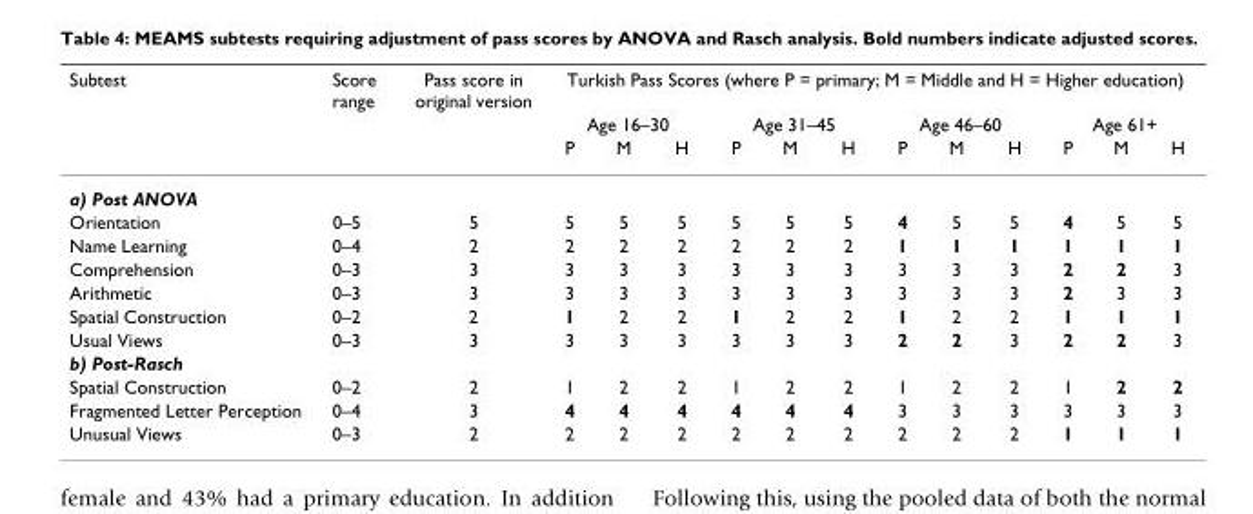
<table><thead><tr><td rowspan="3">Subtest</td><td rowspan="3">Score range</td><td rowspan="3">Pass score in original version</td><td colspan="12">Turkish Pass Scores (where P = primary; M = Middle and H = Higher education)</td></tr><tr><td colspan="3">Age 16–30</td><td colspan="3">Age 31–45</td><td colspan="3">Age 46–60</td><td colspan="3">Age 61+</td></tr><tr><td>P</td><td>M</td><td>H</td><td>P</td><td>M</td><td>H</td><td>P</td><td>M</td><td>H</td><td>P</td><td>M</td><td>H</td></tr></thead><tbody><tr><td colspan="15">a) Post ANOVA</td></tr><tr><td>Orientation</td><td>0–5</td><td>5</td><td>5</td><td>5</td><td>5</td><td>5</td><td>5</td><td>5</td><td>4</td><td>5</td><td>5</td><td>4</td><td>5</td><td>5</td></tr><tr><td>Name Learning</td><td>0–4</td><td>2</td><td>2</td><td>2</td><td>2</td><td>2</td><td>2</td><td>2</td><td>1</td><td>1</td><td>1</td><td>1</td><td>1</td><td>1</td></tr><tr><td>Comprehension</td><td>0–3</td><td>3</td><td>3</td><td>3</td><td>3</td><td>3</td><td>3</td><td>3</td><td>3</td><td>3</td><td>3</td><td>2</td><td>2</td><td>3</td></tr><tr><td>Arithmetic</td><td>0–3</td><td>3</td><td>3</td><td>3</td><td>3</td><td>3</td><td>3</td><td>3</td><td>3</td><td>3</td><td>3</td><td>2</td><td>3</td><td>3</td></tr><tr><td>Spatial Construction</td><td>0–2</td><td>2</td><td>1</td><td>2</td><td>2</td><td>1</td><td>2</td><td>2</td><td>1</td><td>2</td><td>2</td><td>1</td><td>1</td><td>1</td></tr><tr><td>Usual Views</td><td>0–3</td><td>3</td><td>3</td><td>3</td><td>3</td><td>3</td><td>3</td><td>3</td><td>2</td><td>2</td><td>3</td><td>2</td><td>2</td><td>3</td></tr><tr><td colspan="15">b) Post-Rasch</td></tr><tr><td>Spatial Construction</td><td>0–2</td><td>2</td><td>1</td><td>2</td><td>2</td><td>1</td><td>2</td><td>2</td><td>1</td><td>2</td><td>2</td><td>1</td><td>2</td><td>2</td></tr><tr><td>Fragmented Letter Perception</td><td>0–4</td><td>3</td><td>4</td><td>4</td><td>4</td><td>4</td><td>4</td><td>4</td><td>3</td><td>3</td><td>3</td><td>3</td><td>3</td><td>3</td></tr><tr><td>Unusual Views</td><td>0–3</td><td>2</td><td>2</td><td>2</td><td>2</td><td>2</td><td>2</td><td>2</td><td>2</td><td>2</td><td>2</td><td>1</td><td>1</td><td>1</td></tr></tbody></table>